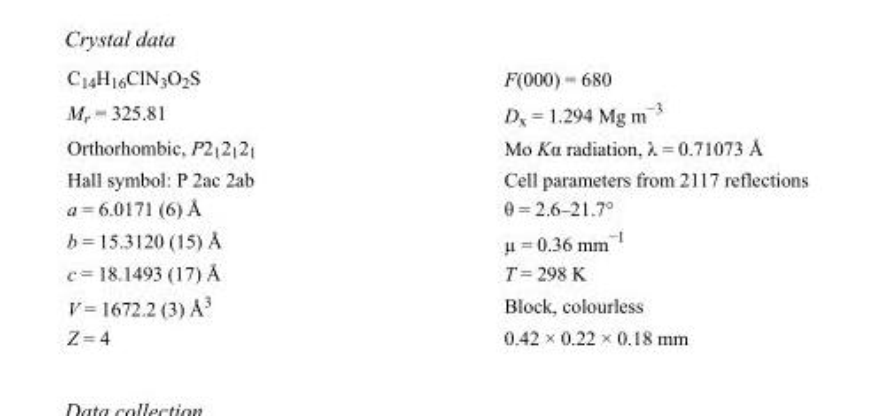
<table><tbody><tr><td>C<sub>14</sub>H<sub>16</sub>ClN<sub>3</sub>O<sub>2</sub>S</td><td>F(000) = 680</td></tr><tr><td>M<sub>r</sub> = 325.81</td><td>D<sub>x</sub> = 1.294 Mg m<sup>−3</sup></td></tr><tr><td>Orthorhombic, P2<sub>1</sub>2<sub>1</sub>2<sub>1</sub></td><td>Mo Kα radiation, λ = 0.71073 Å</td></tr><tr><td>Hall symbol: P 2ac 2ab</td><td>Cell parameters from 2117 reflections</td></tr><tr><td>a = 6.0171 (6) Å</td><td>θ = 2.6–21.7°</td></tr><tr><td>b = 15.3120 (15) Å</td><td>µ = 0.36 mm<sup>−1</sup></td></tr><tr><td>c = 18.1493 (17) Å</td><td>T = 298 K</td></tr><tr><td>V = 1672.2 (3) Å<sup>3</sup></td><td>Block, colourless</td></tr><tr><td>Z = 4</td><td>0.42 × 0.22 × 0.18 mm</td></tr></tbody></table>